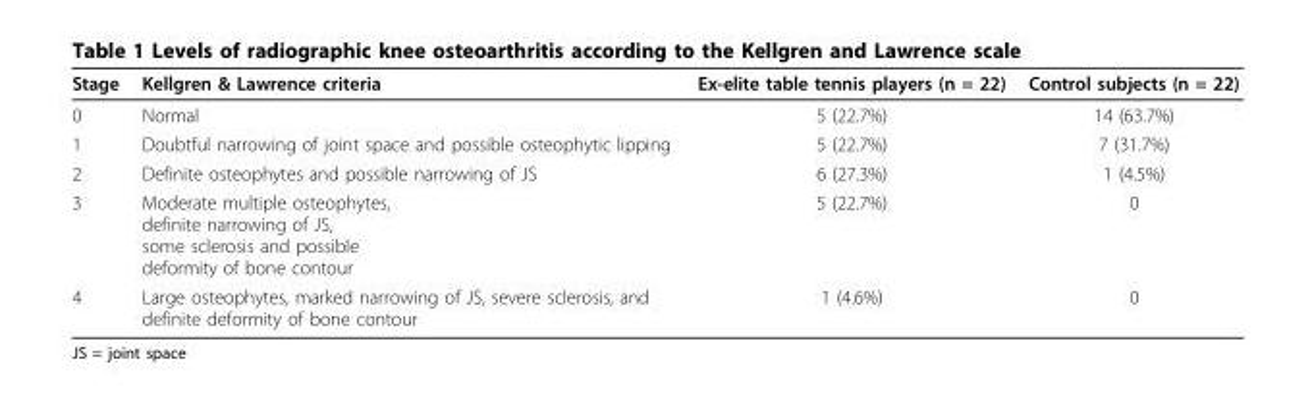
<table><thead><tr><td>Stage</td><td>Kellgren &amp; Lawrence criteria</td><td>Ex-elite table tennis players (n = 22)</td><td>Control subjects (n = 22)</td></tr></thead><tbody><tr><td>0</td><td>Normal</td><td>5 (22.7%)</td><td>14 (63.7%)</td></tr><tr><td>1</td><td>Doubtful narrowing of joint space and possible osteophytic lipping</td><td>5 (22.7%)</td><td>7 (31.7%)</td></tr><tr><td>2</td><td>Definite osteophytes and possible narrowing of JS</td><td>6 (27.3%)</td><td>1 (4.5%)</td></tr><tr><td>3</td><td>Moderate multiple osteophytes, definite narrowing of JS, some sclerosis and possible deformity of bone contour</td><td>5 (22.7%)</td><td>0</td></tr><tr><td>4</td><td>Large osteophytes, marked narrowing of JS, severe sclerosis, and definite deformity of bone contour</td><td>1 (4.6%)</td><td>0</td></tr></tbody></table>